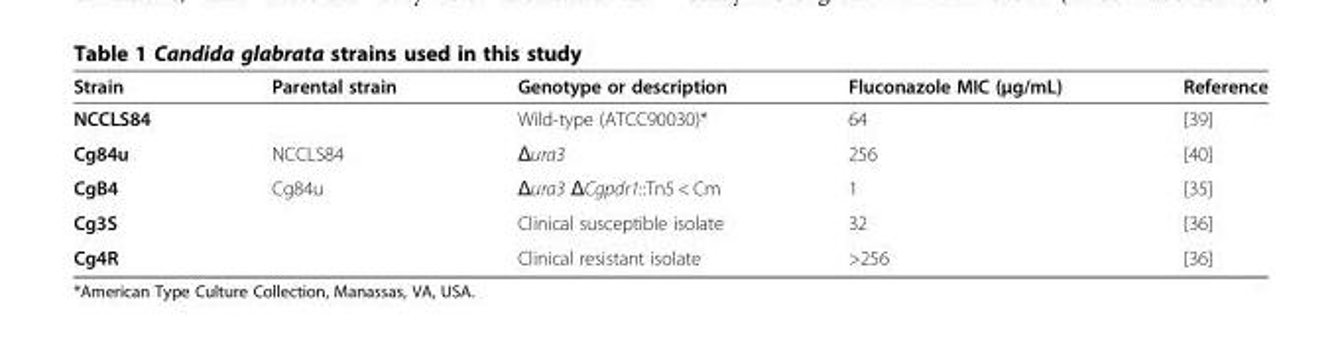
<table><thead><tr><td>Strain</td><td>Parental strain</td><td>Genotype or description</td><td>Fluconazole MIC (μg/mL)</td><td>Reference</td></tr></thead><tbody><tr><td>NCCLS84</td><td></td><td>Wild-type (ATCC90030)*</td><td>64</td><td>[39]</td></tr><tr><td>Cg84u</td><td>NCCLS84</td><td>Δura3</td><td>256</td><td>[40]</td></tr><tr><td>CgB4</td><td>Cg84u</td><td>Δura3 ΔCgpdr1::Tn5 &lt; Cm</td><td>1</td><td>[35]</td></tr><tr><td>Cg3S</td><td></td><td>Clinical susceptible isolate</td><td>32</td><td>[36]</td></tr><tr><td>Cg4R</td><td></td><td>Clinical resistant isolate</td><td>&gt;256</td><td>[36]</td></tr></tbody></table>